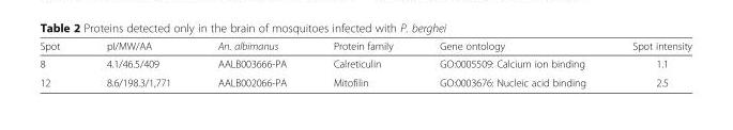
<table><thead><tr><td>Spot</td><td>pI/MW/AA</td><td>An. albimanus</td><td>Protein family</td><td>Gene ontology</td><td>Spot intensity</td></tr></thead><tbody><tr><td>8</td><td>4.1/46.5/409</td><td>AALB003666-PA</td><td>Calreticulin</td><td>GO:0005509: Calcium ion binding</td><td>1.1</td></tr><tr><td>12</td><td>8.6/198.3/1,771</td><td>AALB002066-PA</td><td>Mitofilin</td><td>GO:0003676: Nucleic acid binding</td><td>2.5</td></tr></tbody></table>